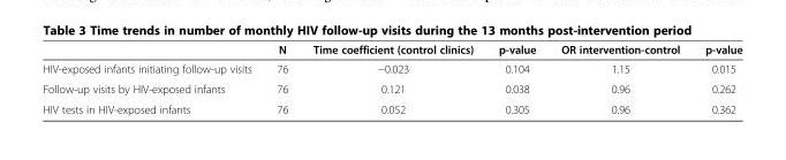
<table><thead><tr><td></td><td>N</td><td>Time coefficient (control clinics)</td><td>p-value</td><td>OR intervention-control</td><td>p-value</td></tr></thead><tbody><tr><td>HIV-exposed infants initiating follow-up visits</td><td>76</td><td>−0.023</td><td>0.104</td><td>1.15</td><td>0.015</td></tr><tr><td>Follow-up visits by HIV-exposed infants</td><td>76</td><td>0.121</td><td>0.038</td><td>0.96</td><td>0.262</td></tr><tr><td>HIV tests in HIV-exposed infants</td><td>76</td><td>0.052</td><td>0.305</td><td>0.96</td><td>0.362</td></tr></tbody></table>